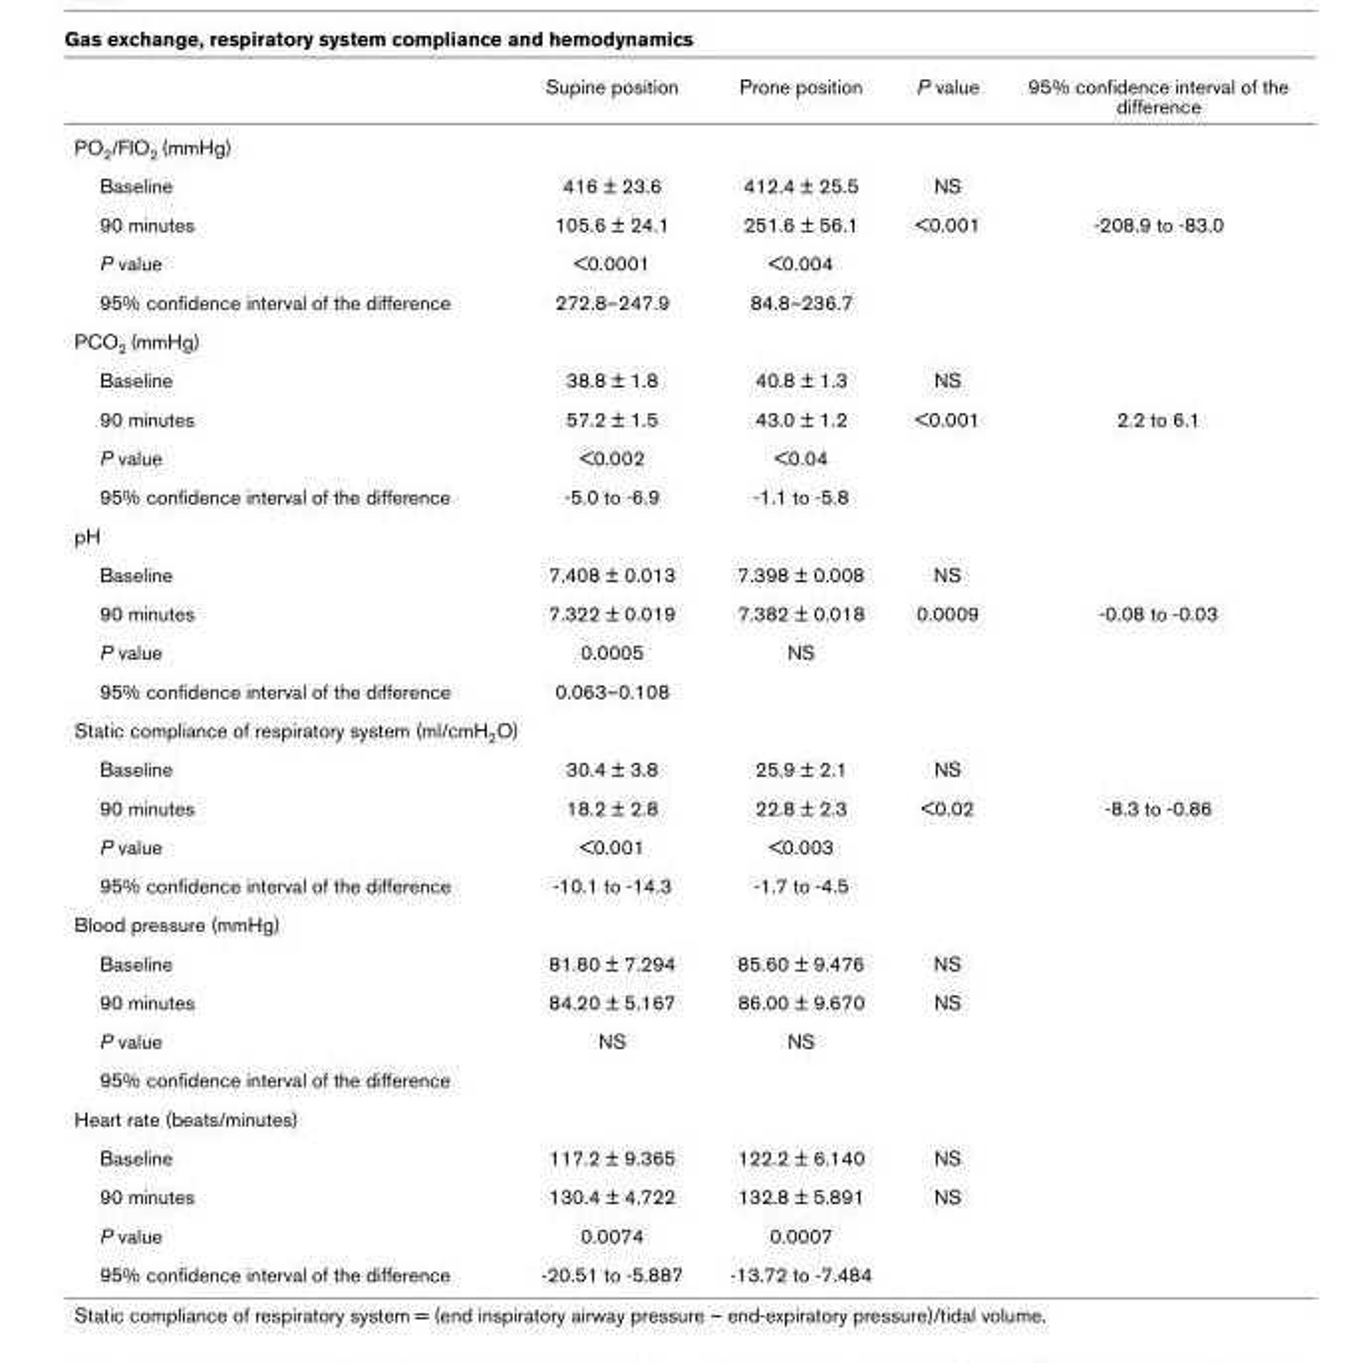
<table><thead><tr><td></td><td>Supine position</td><td>Prone position</td><td>P value</td><td>95% confidence interval of the difference</td></tr></thead><tbody><tr><td colspan="5">PO2/FIO2 (mmHg)</td></tr><tr><td>Baseline</td><td>416 ± 23.6</td><td>412.4 ± 25.5</td><td>NS</td><td></td></tr><tr><td>90 minutes</td><td>105.6 ± 24.1</td><td>251.6 ± 56.1</td><td>&lt;0.001</td><td>-208.9 to -83.0</td></tr><tr><td>P value</td><td>&lt;0.0001</td><td>&lt;0.004</td><td></td><td></td></tr><tr><td>95% confidence interval of the difference</td><td>272.8–247.9</td><td>84.8–236.7</td><td></td><td></td></tr><tr><td colspan="5">PCO2 (mmHg)</td></tr><tr><td>Baseline</td><td>38.8 ± 1.8</td><td>40.8 ± 1.3</td><td>NS</td><td></td></tr><tr><td>90 minutes</td><td>57.2 ± 1.5</td><td>43.0 ± 1.2</td><td>&lt;0.001</td><td>2.2 to 6.1</td></tr><tr><td>P value</td><td>&lt;0.002</td><td>&lt;0.04</td><td></td><td></td></tr><tr><td>95% confidence interval of the difference</td><td>-5.0 to -6.9</td><td>-1.1 to -5.8</td><td></td><td></td></tr><tr><td colspan="5">pH</td></tr><tr><td>Baseline</td><td>7.408 ± 0.013</td><td>7.398 ± 0.008</td><td>NS</td><td></td></tr><tr><td>90 minutes</td><td>7.322 ± 0.019</td><td>7.382 ± 0.018</td><td>0.0009</td><td>-0.08 to -0.03</td></tr><tr><td>P value</td><td>0.0005</td><td>NS</td><td></td><td></td></tr><tr><td>95% confidence interval of the difference</td><td>0.063–0.108</td><td></td><td></td><td></td></tr><tr><td colspan="5">Static compliance of respiratory system (ml/cmH2O)</td></tr><tr><td>Baseline</td><td>30.4 ± 3.8</td><td>25.9 ± 2.1</td><td>NS</td><td></td></tr><tr><td>90 minutes</td><td>18.2 ± 2.8</td><td>22.8 ± 2.3</td><td>&lt;0.02</td><td>-8.3 to -0.86</td></tr><tr><td>P value</td><td>&lt;0.001</td><td>&lt;0.003</td><td></td><td></td></tr><tr><td>95% confidence interval of the difference</td><td>-10.1 to -14.3</td><td>-1.7 to -4.5</td><td></td><td></td></tr><tr><td colspan="5">Blood pressure (mmHg)</td></tr><tr><td>Baseline</td><td>81.80 ± 7.294</td><td>85.60 ± 9.476</td><td>NS</td><td></td></tr><tr><td>90 minutes</td><td>84.20 ± 5.167</td><td>86.00 ± 9.670</td><td>NS</td><td></td></tr><tr><td>P value</td><td>NS</td><td>NS</td><td></td><td></td></tr><tr><td colspan="5">95% confidence interval of the difference</td></tr><tr><td colspan="5">Heart rate (beats/minutes)</td></tr><tr><td>Baseline</td><td>117.2 ± 9.365</td><td>122.2 ± 6.140</td><td>NS</td><td></td></tr><tr><td>90 minutes</td><td>130.4 ± 4.722</td><td>132.8 ± 5.891</td><td>NS</td><td></td></tr><tr><td>P value</td><td>0.0074</td><td>0.0007</td><td></td><td></td></tr><tr><td>95% confidence interval of the difference</td><td>-20.51 to -5.887</td><td>-13.72 to -7.484</td><td></td><td></td></tr></tbody></table>